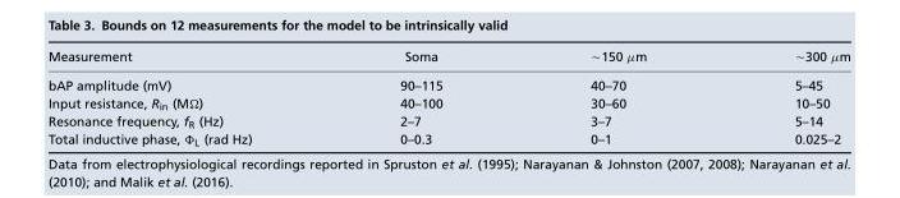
<table><thead><tr><td>Measurement</td><td>Soma</td><td>∼150 μm</td><td>∼300 μm</td></tr></thead><tbody><tr><td>bAP amplitude (mV)</td><td>90–115</td><td>40–70</td><td>5–45</td></tr><tr><td>Input resistance, R<sub>in</sub> (MΩ)</td><td>40–100</td><td>30–60</td><td>10–50</td></tr><tr><td>Resonance frequency, f<sub>R</sub> (Hz)</td><td>2–7</td><td>3–7</td><td>5–14</td></tr><tr><td>Total inductive phase, Φ<sub>L</sub> (rad Hz)</td><td>0–0.3</td><td>0–1</td><td>0.025–2</td></tr></tbody></table>